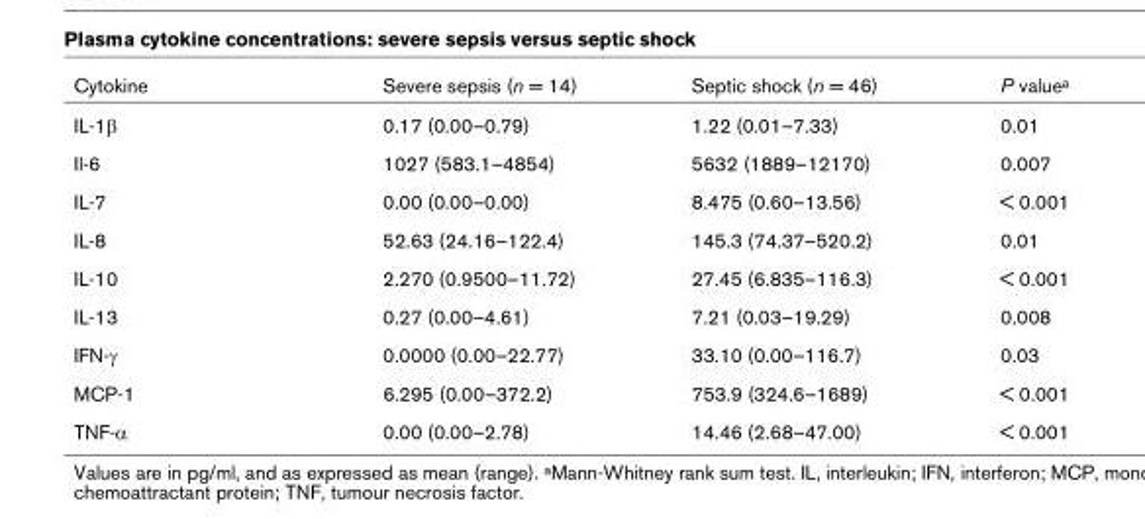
<table><thead><tr><td>Cytokine</td><td>Severe sepsis (n = 14)</td><td>Septic shock (n = 46)</td><td>P value<sup>a</sup></td></tr></thead><tbody><tr><td>IL-1β</td><td>0.17 (0.00–0.79)</td><td>1.22 (0.01–7.33)</td><td>0.01</td></tr><tr><td>Il-6</td><td>1027 (583.1–4854)</td><td>5632 (1889–12170)</td><td>0.007</td></tr><tr><td>IL-7</td><td>0.00 (0.00–0.00)</td><td>8.475 (0.60–13.56)</td><td>&lt; 0.001</td></tr><tr><td>IL-8</td><td>52.63 (24.16–122.4)</td><td>145.3 (74.37–520.2)</td><td>0.01</td></tr><tr><td>IL-10</td><td>2.270 (0.9500–11.72)</td><td>27.45 (6.835–116.3)</td><td>&lt; 0.001</td></tr><tr><td>IL-13</td><td>0.27 (0.00–4.61)</td><td>7.21 (0.03–19.29)</td><td>0.008</td></tr><tr><td>IFN-γ</td><td>0.0000 (0.00–22.77)</td><td>33.10 (0.00–116.7)</td><td>0.03</td></tr><tr><td>MCP-1</td><td>6.295 (0.00–372.2)</td><td>753.9 (324.6–1689)</td><td>&lt; 0.001</td></tr><tr><td>TNF-α</td><td>0.00 (0.00–2.78)</td><td>14.46 (2.68–47.00)</td><td>&lt; 0.001</td></tr></tbody></table>